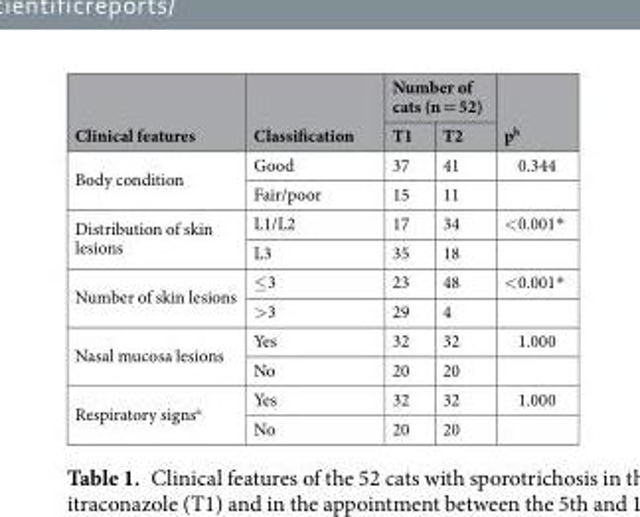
<table><thead><tr><td rowspan="2">Clinical features</td><td rowspan="2">Classification</td><td colspan="2">Number of cats (n = 52)</td><td rowspan="2">p<sup>b</sup></td></tr><tr><td>T1</td><td>T2</td></tr></thead><tbody><tr><td rowspan="2">Body condition</td><td>Good</td><td>37</td><td>41</td><td>0.344</td></tr><tr><td>Fair/poor</td><td>15</td><td>11</td><td></td></tr><tr><td rowspan="2">Distribution of skin lesions</td><td>L1/L2</td><td>17</td><td>34</td><td>&lt;0.001*</td></tr><tr><td>L3</td><td>35</td><td>18</td><td></td></tr><tr><td rowspan="2">Number of skin lesions</td><td>≤3</td><td>23</td><td>48</td><td>&lt;0.001*</td></tr><tr><td>&gt;3</td><td>29</td><td>4</td><td></td></tr><tr><td rowspan="2">Nasal mucosa lesions</td><td>Yes</td><td>32</td><td>32</td><td>1.000</td></tr><tr><td>No</td><td>20</td><td>20</td><td></td></tr><tr><td rowspan="2">Respiratory signs<sup>a</sup></td><td>Yes</td><td>32</td><td>32</td><td>1.000</td></tr><tr><td>No</td><td>20</td><td>20</td><td></td></tr></tbody></table>